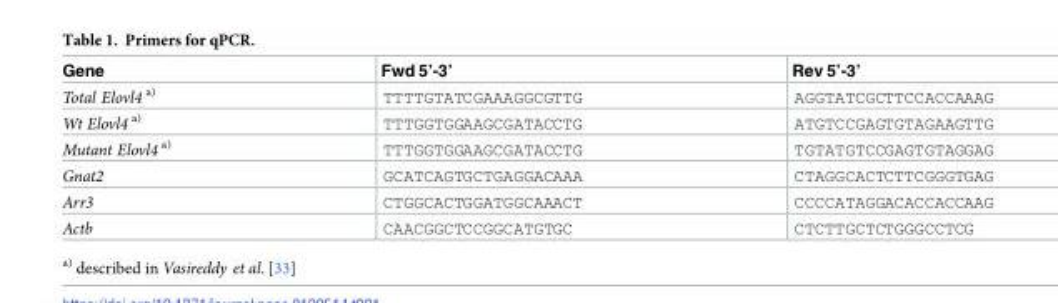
<table><thead><tr><td>Gene</td><td>Fwd 5’-3’</td><td>Rev 5’-3’</td></tr></thead><tbody><tr><td>Total Elovl4 <sup>a)</sup></td><td>TTTTGTATCGAAAGGCGTTG</td><td>AGGTATCGCTTCCACCAAAG</td></tr><tr><td>Wt Elovl4 <sup>a)</sup></td><td>TTTGGTGGAAGCGATACCTG</td><td>ATGTCCGAGTGTAGAAGTTG</td></tr><tr><td>Mutant Elovl4 <sup>a)</sup></td><td>TTTGGTGGAAGCGATACCTG</td><td>TGTATGTCCGAGTGTAGGAG</td></tr><tr><td>Gnat2</td><td>GCATCAGTGCTGAGGACAAA</td><td>CTAGGCACTCTTCGGGTGAG</td></tr><tr><td>Arr3</td><td>CTGGCACTGGATGGCAAACT</td><td>CCCCATAGGACACCACCAAG</td></tr><tr><td>Actb</td><td>CAACGGCTCCGGCATGTGC</td><td>CTCTTGCTCTGGGCCTCG</td></tr></tbody></table>